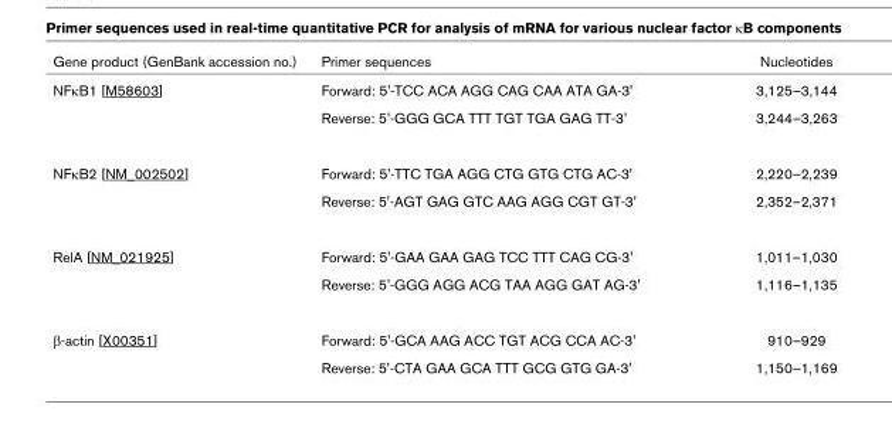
<table><thead><tr><td>Gene product (GenBank accession no.)</td><td>Primer sequences</td><td>Nucleotides</td></tr></thead><tbody><tr><td rowspan="2">NFκB1 [M58603]</td><td>Forward: 5&#x27;-TCC ACA AGG CAG CAA ATA GA-3&#x27;</td><td>3,125–3,144</td></tr><tr><td>Reverse: 5&#x27;-GGG GCA TTT TGT TGA GAG TT-3&#x27;</td><td>3,244–3,263</td></tr><tr><td rowspan="2">NFκB2 [NM_002502]</td><td>Forward: 5&#x27;-TTC TGA AGG CTG GTG CTG AC-3&#x27;</td><td>2,220–2,239</td></tr><tr><td>Reverse: 5&#x27;-AGT GAG GTC AAG AGG CGT GT-3&#x27;</td><td>2,352–2,371</td></tr><tr><td rowspan="2">RelA [NM_021925]</td><td>Forward: 5&#x27;-GAA GAA GAG TCC TTT CAG CG-3&#x27;</td><td>1,011–1,030</td></tr><tr><td>Reverse: 5&#x27;-GGG AGG ACG TAA AGG GAT AG-3&#x27;</td><td>1,116–1,135</td></tr><tr><td rowspan="2">β-actin [X00351]</td><td>Forward: 5&#x27;-GCA AAG ACC TGT ACG CCA AC-3&#x27;</td><td>910–929</td></tr><tr><td>Reverse: 5&#x27;-CTA GAA GCA TTT GCG GTG GA-3&#x27;</td><td>1,150–1,169</td></tr></tbody></table>